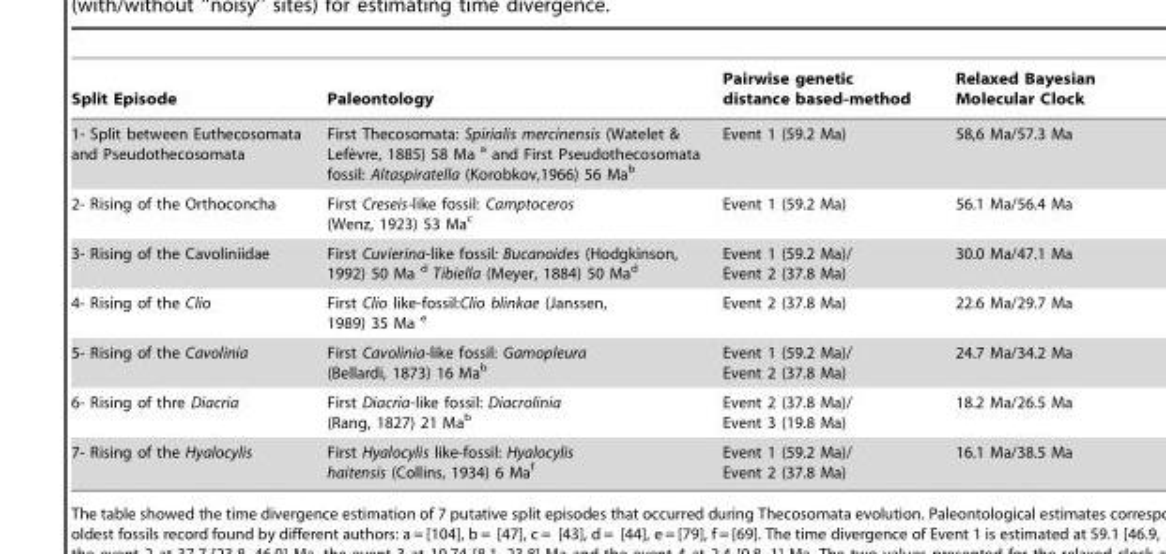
<table><thead><tr><td>Split Episode</td><td>Paleontology</td><td>Pairwise genetic distance based-method</td><td>Relaxed Bayesian Molecular Clock</td></tr></thead><tbody><tr><td>1- Split between Euthecosomata and Pseudothecosomata</td><td>First Thecosomata: Spirialis mercinensis (Watelet &amp; Lefe`vre, 1885) 58 Ma a and First Pseudothecosomata fossil: Altaspiratella (Korobkov,1966) 56 Mab</td><td>Event 1 (59.2 Ma)</td><td>58,6 Ma/57.3 Ma</td></tr><tr><td>2- Rising of the Orthoconcha</td><td>First Creseis-like fossil: Camptoceros (Wenz, 1923) 53 Ma<sup>c</sup></td><td>Event 1 (59.2 Ma)</td><td>56.1 Ma/56.4 Ma</td></tr><tr><td>3- Rising of the Cavoliniidae</td><td>First Cuvierina-like fossil: Bucanoides (Hodgkinson, 1992) 50 Ma <sup>d</sup> Tibiella (Meyer, 1884) 50 Ma<sup>d</sup></td><td>Event 1 (59.2 Ma)/ Event 2 (37.8 Ma)</td><td>30.0 Ma/47.1 Ma</td></tr><tr><td>4- Rising of the Clio</td><td>First Clio like-fossil:Clio blinkae (Janssen, 1989) 35 Ma <sup>e</sup></td><td>Event 2 (37.8 Ma)</td><td>22.6 Ma/29.7 Ma</td></tr><tr><td>5- Rising of the Cavolinia</td><td>First Cavolinia-like fossil: Gamopleura (Bellardi, 1873) 16 Ma<sup>b</sup></td><td>Event 1 (59.2 Ma)/ Event 2 (37.8 Ma)</td><td>24.7 Ma/34.2 Ma</td></tr><tr><td>6- Rising of thre Diacria</td><td>First Diacria-like fossil: Diacrolinia (Rang, 1827) 21 Ma<sup>b</sup></td><td>Event 2 (37.8 Ma)/ Event 3 (19.8 Ma)</td><td>18.2 Ma/26.5 Ma</td></tr><tr><td>7- Rising of the Hyalocylis</td><td>First Hyalocylis like-fossil: Hyalocylis haitensis (Collins, 1934) 6 Ma<sup>f</sup></td><td>Event 1 (59.2 Ma)/ Event 2 (37.8 Ma)</td><td>16.1 Ma/38.5 Ma</td></tr></tbody></table>